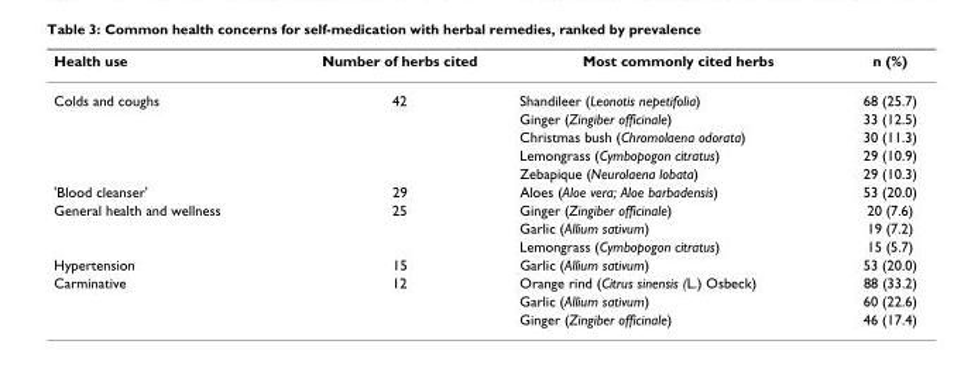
<table><thead><tr><td>Health use</td><td>Number of herbs cited</td><td>Most commonly cited herbs</td><td>n (%)</td></tr></thead><tbody><tr><td rowspan="5">Colds and coughs</td><td>42</td><td>Shandileer (Leonotis nepetifolia)</td><td>68 (25.7)</td></tr><tr><td></td><td>Ginger (Zingiber officinale)</td><td>33 (12.5)</td></tr><tr><td></td><td>Christmas bush (Chromolaena odorata)</td><td>30 (11.3)</td></tr><tr><td></td><td>Lemongrass (Cymbopogon citratus)</td><td>29 (10.9)</td></tr><tr><td></td><td>Zebapique (Neurolaena lobata)</td><td>29 (10.3)</td></tr><tr><td>&#x27;Blood cleanser&#x27;</td><td>29</td><td>Aloes (Aloe vera; Aloe barbadensis)</td><td>53 (20.0)</td></tr><tr><td rowspan="3">General health and wellness</td><td>25</td><td>Ginger (Zingiber officinale)</td><td>20 (7.6)</td></tr><tr><td></td><td>Garlic (Allium sativum)</td><td>19 (7.2)</td></tr><tr><td></td><td>Lemongrass (Cymbopogon citratus)</td><td>15 (5.7)</td></tr><tr><td>Hypertension</td><td>15</td><td>Garlic (Allium sativum)</td><td>53 (20.0)</td></tr><tr><td rowspan="3">Carminative</td><td>12</td><td>Orange rind (Citrus sinensis (L.) Osbeck)</td><td>88 (33.2)</td></tr><tr><td></td><td>Garlic (Allium sativum)</td><td>60 (22.6)</td></tr><tr><td></td><td>Ginger (Zingiber officinale)</td><td>46 (17.4)</td></tr></tbody></table>